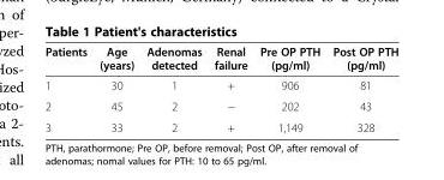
<table><thead><tr><td>Patients</td><td>Age (years)</td><td>Adenomas detected</td><td>Renal failure</td><td>Pre OP PTH (pg/ml)</td><td>Post OP PTH (pg/ml)</td></tr></thead><tbody><tr><td>1</td><td>30</td><td>1</td><td>+</td><td>906</td><td>81</td></tr><tr><td>2</td><td>45</td><td>2</td><td>−</td><td>202</td><td>43</td></tr><tr><td>3</td><td>33</td><td>2</td><td>+</td><td>1,149</td><td>328</td></tr></tbody></table>